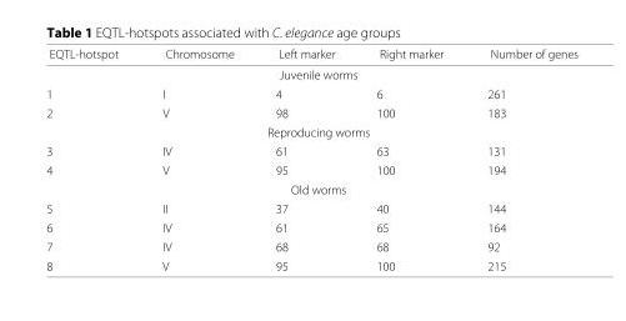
<table><thead><tr><td>EQTL-hotspot</td><td>Chromosome</td><td>Left marker</td><td>Right marker</td><td>Number of genes</td></tr></thead><tbody><tr><td colspan="5">Juvenile worms</td></tr><tr><td>1</td><td>I</td><td>4</td><td>6</td><td>261</td></tr><tr><td>2</td><td>V</td><td>98</td><td>100</td><td>183</td></tr><tr><td colspan="5">Reproducing worms</td></tr><tr><td>3</td><td>IV</td><td>61</td><td>63</td><td>131</td></tr><tr><td>4</td><td>V</td><td>95</td><td>100</td><td>194</td></tr><tr><td colspan="5">Old worms</td></tr><tr><td>5</td><td>II</td><td>37</td><td>40</td><td>144</td></tr><tr><td>6</td><td>IV</td><td>61</td><td>65</td><td>164</td></tr><tr><td>7</td><td>IV</td><td>68</td><td>68</td><td>92</td></tr><tr><td>8</td><td>V</td><td>95</td><td>100</td><td>215</td></tr></tbody></table>